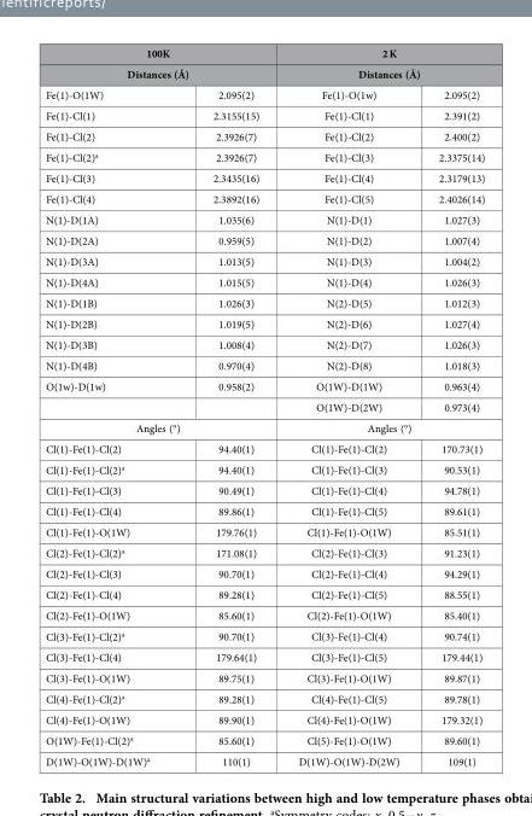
<table><thead><tr><td rowspan="2" colspan="2">100K Distances (Å)</td><td rowspan="2" colspan="2">2 K Distances (Å)</td></tr><tr></tr><tr><td>Fe(1)-O(1W)</td><td>2.095(2)</td><td>Fe(1)-O(1w)</td><td>2.095(2)</td></tr></thead><tbody><tr><td>Fe(1)-Cl(1)</td><td>2.3155(15)</td><td>Fe(1)-Cl(1)</td><td>2.391(2)</td></tr><tr><td>Fe(1)-Cl(2)</td><td>2.3926(7)</td><td>Fe(1)-Cl(2)</td><td>2.400(2)</td></tr><tr><td>Fe(1)-Cl(2)<sup>a</sup></td><td>2.3926(7)</td><td>Fe(1)-Cl(3)</td><td>2.3375(14)</td></tr><tr><td>Fe(1)-Cl(3)</td><td>2.3435(16)</td><td>Fe(1)-Cl(4)</td><td>2.3179(13)</td></tr><tr><td>Fe(1)-Cl(4)</td><td>2.3892(16)</td><td>Fe(1)-Cl(5)</td><td>2.4026(14)</td></tr><tr><td>N(1)-D(1A)</td><td>1.035(6)</td><td>N(1)-D(1)</td><td>1.027(3)</td></tr><tr><td>N(1)-D(2A)</td><td>0.959(5)</td><td>N(1)-D(2)</td><td>1.007(4)</td></tr><tr><td>N(1)-D(3A)</td><td>1.013(5)</td><td>N(1)-D(3)</td><td>1.004(2)</td></tr><tr><td>N(1)-D(4A)</td><td>1.015(5)</td><td>N(1)-D(4)</td><td>1.026(3)</td></tr><tr><td>N(1)-D(1B)</td><td>1.026(3)</td><td>N(2)-D(5)</td><td>1.012(3)</td></tr><tr><td>N(1)-D(2B)</td><td>1.019(5)</td><td>N(2)-D(6)</td><td>1.027(4)</td></tr><tr><td>N(1)-D(3B)</td><td>1.008(4)</td><td>N(2)-D(7)</td><td>1.026(3)</td></tr><tr><td>N(1)-D(4B)</td><td>0.970(4)</td><td>N(2)-D(8)</td><td>1.018(3)</td></tr><tr><td rowspan="2">O(1w)-D(1w)</td><td>0.958(2)</td><td>O(1W)-D(1W)</td><td>0.963(4)</td></tr><tr><td></td><td>O(1W)-D(2W)</td><td>0.973(4)</td></tr><tr><td colspan="2">Angles (°)</td><td colspan="2">Angles (°)</td></tr><tr><td>Cl(1)-Fe(1)-Cl(2)</td><td>94.40(1)</td><td>Cl(1)-Fe(1)-Cl(2)</td><td>170.73(1)</td></tr><tr><td>Cl(1)-Fe(1)-Cl(2)<sup>a</sup></td><td>94.40(1)</td><td>Cl(1)-Fe(1)-Cl(3)</td><td>90.53(1)</td></tr><tr><td>Cl(1)-Fe(1)-Cl(3)</td><td>90.49(1)</td><td>Cl(1)-Fe(1)-Cl(4)</td><td>94.78(1)</td></tr><tr><td>Cl(1)-Fe(1)-Cl(4)</td><td>89.86(1)</td><td>Cl(1)-Fe(1)-Cl(5)</td><td>89.61(1)</td></tr><tr><td>Cl(1)-Fe(1)-O(1W)</td><td>179.76(1)</td><td>Cl(1)-Fe(1)-O(1W)</td><td>85.51(1)</td></tr><tr><td>Cl(2)-Fe(1)-Cl(2)<sup>a</sup></td><td>171.08(1)</td><td>Cl(2)-Fe(1)-Cl(3)</td><td>91.23(1)</td></tr><tr><td>Cl(2)-Fe(1)-Cl(3)</td><td>90.70(1)</td><td>Cl(2)-Fe(1)-Cl(4)</td><td>94.29(1)</td></tr><tr><td>Cl(2)-Fe(1)-Cl(4)</td><td>89.28(1)</td><td>Cl(2)-Fe(1)-Cl(5)</td><td>88.55(1)</td></tr><tr><td>Cl(2)-Fe(1)-O(1W)</td><td>85.60(1)</td><td>Cl(2)-Fe(1)-O(1W)</td><td>85.40(1)</td></tr><tr><td>Cl(3)-Fe(1)-Cl(2)<sup>a</sup></td><td>90.70(1)</td><td>Cl(3)-Fe(1)-Cl(4)</td><td>90.74(1)</td></tr><tr><td>Cl(3)-Fe(1)-Cl(4)</td><td>179.64(1)</td><td>Cl(3)-Fe(1)-Cl(5)</td><td>179.44(1)</td></tr><tr><td>Cl(3)-Fe(1)-O(1W)</td><td>89.75(1)</td><td>Cl(3)-Fe(1)-O(1W)</td><td>89.87(1)</td></tr><tr><td>Cl(4)-Fe(1)-Cl(2)<sup>a</sup></td><td>89.28(1)</td><td>Cl(4)-Fe(1)-Cl(5)</td><td>89.78(1)</td></tr><tr><td>Cl(4)-Fe(1)-O(1W)</td><td>89.90(1)</td><td>Cl(4)-Fe(1)-O(1W)</td><td>179.32(1)</td></tr><tr><td>O(1W)-Fe(1)-Cl(2)<sup>a</sup></td><td>85.60(1)</td><td>Cl(5)-Fe(1)-O(1W)</td><td>89.60(1)</td></tr><tr><td>D(1W)-O(1W)-D(1W)<sup>a</sup></td><td>110(1)</td><td>D(1W)-O(1W)-D(2W)</td><td>109(1)</td></tr></tbody></table>